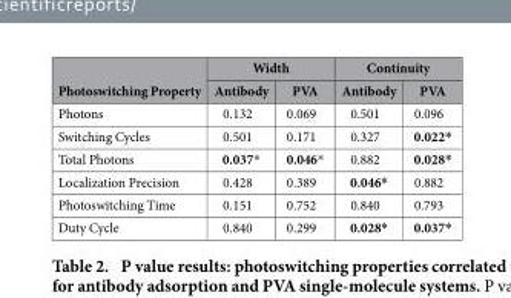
<table><thead><tr><td rowspan="2">Photoswitching Property</td><td colspan="2">Width</td><td colspan="2">Continuity</td></tr><tr><td>Antibody</td><td>PVA</td><td>Antibody</td><td>PVA</td></tr></thead><tbody><tr><td>Photons</td><td>0.132</td><td>0.069</td><td>0.501</td><td>0.096</td></tr><tr><td>Switching Cycles</td><td>0.501</td><td>0.171</td><td>0.327</td><td>0.022*</td></tr><tr><td>Total Photons</td><td>0.037*</td><td>0.046*</td><td>0.882</td><td>0.028*</td></tr><tr><td>Localization Precision</td><td>0.428</td><td>0.389</td><td>0.046*</td><td>0.882</td></tr><tr><td>Photoswitching Time</td><td>0.151</td><td>0.752</td><td>0.840</td><td>0.793</td></tr><tr><td>Duty Cycle</td><td>0.840</td><td>0.299</td><td>0.028*</td><td>0.037*</td></tr></tbody></table>